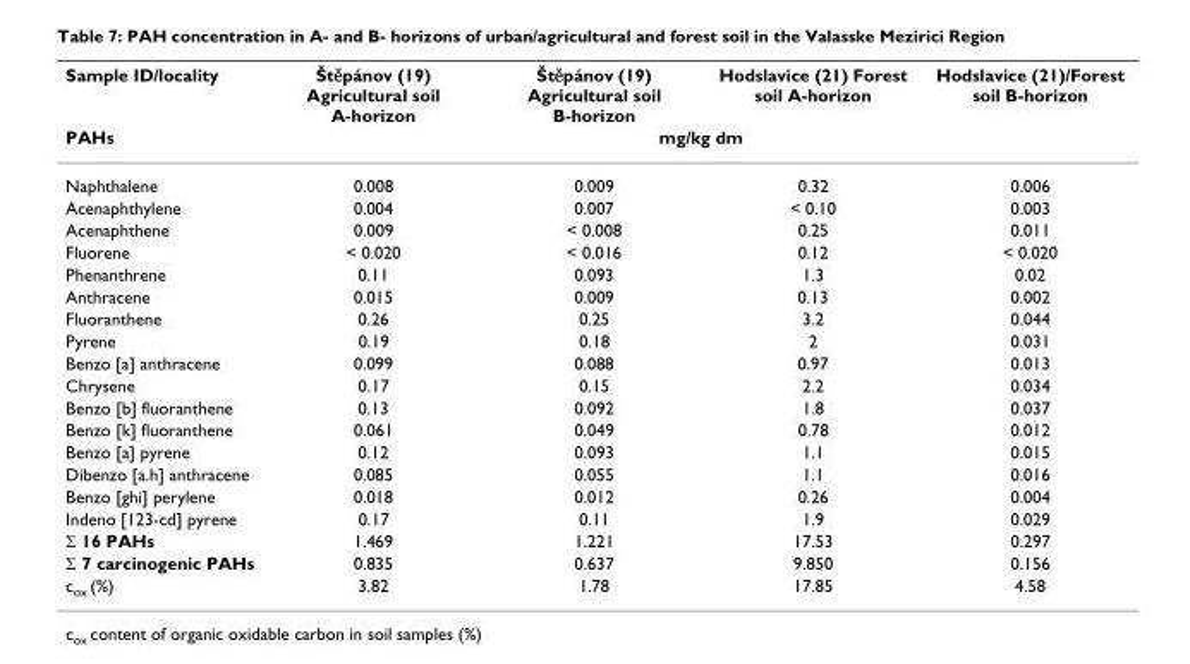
<table><thead><tr><td rowspan="2">Sample ID/locality PAHs</td><td>ŠtЕpánov (19) Agricultural soil A-horizon</td><td>ŠtЕpánov (19) Agricultural soil B-horizon</td><td>Hodslavice (21) Forest soil A-horizon</td><td>Hodslavice (21)/Forest soil B-horizon</td></tr><tr><td colspan="4">mg/kg dm</td></tr></thead><tbody><tr><td>Naphthalene</td><td>0.008</td><td>0.009</td><td>0.32</td><td>0.006</td></tr><tr><td>Acenaphthylene</td><td>0.004</td><td>0.007</td><td>&lt; 0.10</td><td>0.003</td></tr><tr><td>Acenaphthene</td><td>0.009</td><td>&lt; 0.008</td><td>0.25</td><td>0.011</td></tr><tr><td>Fluorene</td><td>&lt; 0.020</td><td>&lt; 0.016</td><td>0.12</td><td>&lt; 0.020</td></tr><tr><td>Phenanthrene</td><td>0.11</td><td>0.093</td><td>1.3</td><td>0.02</td></tr><tr><td>Anthracene</td><td>0.015</td><td>0.009</td><td>0.13</td><td>0.002</td></tr><tr><td>Fluoranthene</td><td>0.26</td><td>0.25</td><td>3.2</td><td>0.044</td></tr><tr><td>Pyrene</td><td>0.19</td><td>0.18</td><td>2</td><td>0.031</td></tr><tr><td>Benzo [a] anthracene</td><td>0.099</td><td>0.088</td><td>0.97</td><td>0.013</td></tr><tr><td>Chrysene</td><td>0.17</td><td>0.15</td><td>2.2</td><td>0.034</td></tr><tr><td>Benzo [b] fluoranthene</td><td>0.13</td><td>0.092</td><td>1.8</td><td>0.037</td></tr><tr><td>Benzo [k] fluoranthene</td><td>0.061</td><td>0.049</td><td>0.78</td><td>0.012</td></tr><tr><td>Benzo [a] pyrene</td><td>0.12</td><td>0.093</td><td>1.1</td><td>0.015</td></tr><tr><td>Dibenzo [a.h] anthracene</td><td>0.085</td><td>0.055</td><td>1.1</td><td>0.016</td></tr><tr><td>Benzo [ghi] perylene</td><td>0.018</td><td>0.012</td><td>0.26</td><td>0.004</td></tr><tr><td>Indeno [123-cd] pyrene</td><td>0.17</td><td>0.11</td><td>1.9</td><td>0.029</td></tr><tr><td>Σ 16 PAHs</td><td>1.469</td><td>1.221</td><td>17.53</td><td>0.297</td></tr><tr><td>Σ 7 carcinogenic PAHs</td><td>0.835</td><td>0.637</td><td>9.850</td><td>0.156</td></tr><tr><td>c<sub>ox</sub> (%)</td><td>3.82</td><td>1.78</td><td>17.85</td><td>4.58</td></tr></tbody></table>